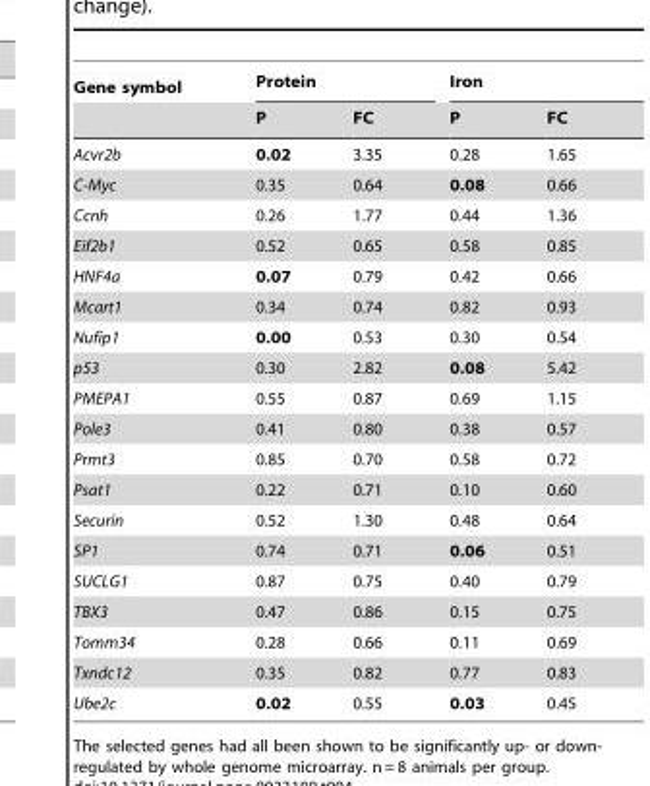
<table><thead><tr><td rowspan="2">Gene symbol</td><td colspan="2">Protein</td><td colspan="2">Iron</td></tr><tr><td>P</td><td>FC</td><td>P</td><td>FC</td></tr></thead><tbody><tr><td>Acvr2b</td><td>0.02</td><td>3.35</td><td>0.28</td><td>1.65</td></tr><tr><td>C-Myc</td><td>0.35</td><td>0.64</td><td>0.08</td><td>0.66</td></tr><tr><td>Ccnh</td><td>0.26</td><td>1.77</td><td>0.44</td><td>1.36</td></tr><tr><td>Eif2b1</td><td>0.52</td><td>0.65</td><td>0.58</td><td>0.85</td></tr><tr><td>HNF4a</td><td>0.07</td><td>0.79</td><td>0.42</td><td>0.66</td></tr><tr><td>Mcart1</td><td>0.34</td><td>0.74</td><td>0.82</td><td>0.93</td></tr><tr><td>Nufip1</td><td>0.00</td><td>0.53</td><td>0.30</td><td>0.54</td></tr><tr><td>p53</td><td>0.30</td><td>2.82</td><td>0.08</td><td>5.42</td></tr><tr><td>PMEPA1</td><td>0.55</td><td>0.87</td><td>0.69</td><td>1.15</td></tr><tr><td>Pole3</td><td>0.41</td><td>0.80</td><td>0.38</td><td>0.57</td></tr><tr><td>Prmt3</td><td>0.85</td><td>0.70</td><td>0.58</td><td>0.72</td></tr><tr><td>Psat1</td><td>0.22</td><td>0.71</td><td>0.10</td><td>0.60</td></tr><tr><td>Securin</td><td>0.52</td><td>1.30</td><td>0.48</td><td>0.64</td></tr><tr><td>SP1</td><td>0.74</td><td>0.71</td><td>0.06</td><td>0.51</td></tr><tr><td>SUCLG1</td><td>0.87</td><td>0.75</td><td>0.40</td><td>0.79</td></tr><tr><td>TBX3</td><td>0.47</td><td>0.86</td><td>0.15</td><td>0.75</td></tr><tr><td>Tomm34</td><td>0.28</td><td>0.66</td><td>0.11</td><td>0.69</td></tr><tr><td>Txndc12</td><td>0.35</td><td>0.82</td><td>0.77</td><td>0.83</td></tr><tr><td>Ube2c</td><td>0.02</td><td>0.55</td><td>0.03</td><td>0.45</td></tr></tbody></table>